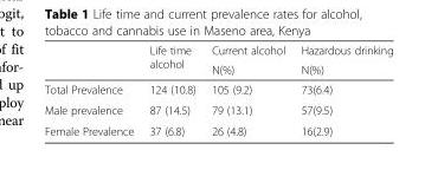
<table><thead><tr><td rowspan="2"></td><td rowspan="2">Life time alcohol</td><td rowspan="2">Current alcohol N(%)</td><td rowspan="2">Hazardous drinking N(%)</td></tr><tr></tr></thead><tbody><tr><td>Total Prevalence</td><td>124 (10.8)</td><td>105 (9.2)</td><td>73(6.4)</td></tr><tr><td>Male prevalence</td><td>87 (14.5)</td><td>79 (13.1)</td><td>57(9.5)</td></tr><tr><td>Female Prevalence</td><td>37 (6.8)</td><td>26 (4.8)</td><td>16(2.9)</td></tr></tbody></table>